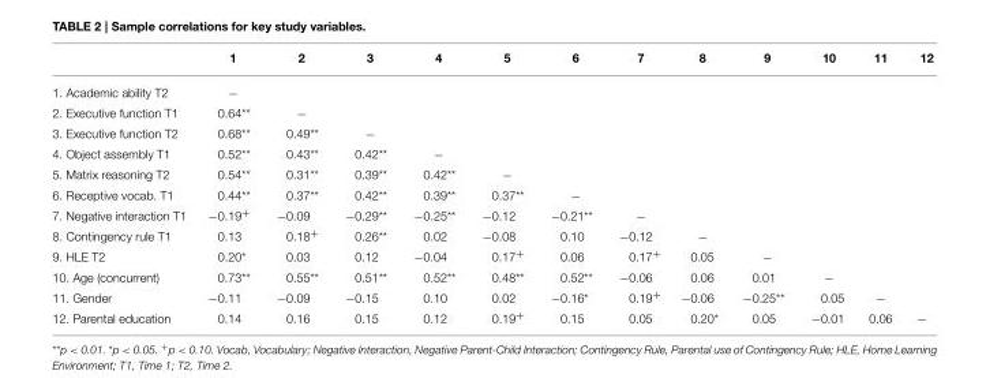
<table><thead><tr><td></td><td>1</td><td>2</td><td>3</td><td>4</td><td>5</td><td>6</td><td>7</td><td>8</td><td>9</td><td>10</td><td>11</td><td>12</td></tr></thead><tbody><tr><td>1. Academic ability T2</td><td>−</td><td></td><td></td><td></td><td></td><td></td><td></td><td></td><td></td><td></td><td></td><td></td></tr><tr><td>2. Executive function T1</td><td>0.64**</td><td>−</td><td></td><td></td><td></td><td></td><td></td><td></td><td></td><td></td><td></td><td></td></tr><tr><td>3. Executive function T2</td><td>0.68**</td><td>0.49**</td><td>−</td><td></td><td></td><td></td><td></td><td></td><td></td><td></td><td></td><td></td></tr><tr><td>4. Object assembly T1</td><td>0.52**</td><td>0.43**</td><td>0.42**</td><td>−</td><td></td><td></td><td></td><td></td><td></td><td></td><td></td><td></td></tr><tr><td>5. Matrix reasoning T2</td><td>0.54**</td><td>0.31**</td><td>0.39**</td><td>0.42**</td><td>−</td><td></td><td></td><td></td><td></td><td></td><td></td><td></td></tr><tr><td>6. Receptive vocab. T1</td><td>0.44**</td><td>0.37**</td><td>0.42**</td><td>0.39**</td><td>0.37**</td><td>−</td><td></td><td></td><td></td><td></td><td></td><td></td></tr><tr><td>7. Negative interaction T1</td><td>−0.19<sup>+</sup></td><td>−0.09</td><td>−0.29**</td><td>−0.25**</td><td>−0.12</td><td>−0.21**</td><td>−</td><td></td><td></td><td></td><td></td><td></td></tr><tr><td>8. Contingency rule T1</td><td>0.13</td><td>0.18<sup>+</sup></td><td>0.26**</td><td>0.02</td><td>−0.08</td><td>0.10</td><td>−0.12</td><td>−</td><td></td><td></td><td></td><td></td></tr><tr><td>9. HLE T2</td><td>0.20*</td><td>0.03</td><td>0.12</td><td>−0.04</td><td>0.17<sup>+</sup></td><td>0.06</td><td>0.17<sup>+</sup></td><td>0.05</td><td>−</td><td></td><td></td><td></td></tr><tr><td>10. Age (concurrent)</td><td>0.73**</td><td>0.55**</td><td>0.51**</td><td>0.52**</td><td>0.48**</td><td>0.52**</td><td>−0.06</td><td>0.06</td><td>0.01</td><td>−</td><td></td><td></td></tr><tr><td>11. Gender</td><td>−0.11</td><td>−0.09</td><td>−0.15</td><td>0.10</td><td>0.02</td><td>−0.16*</td><td>0.19<sup>+</sup></td><td>−0.06</td><td>−0.25**</td><td>0.05</td><td>−</td><td></td></tr><tr><td>12. Parental education</td><td>0.14</td><td>0.16</td><td>0.15</td><td>0.12</td><td>0.19<sup>+</sup></td><td>0.15</td><td>0.05</td><td>0.20*</td><td>0.05</td><td>−0.01</td><td>0.06</td><td>−</td></tr></tbody></table>